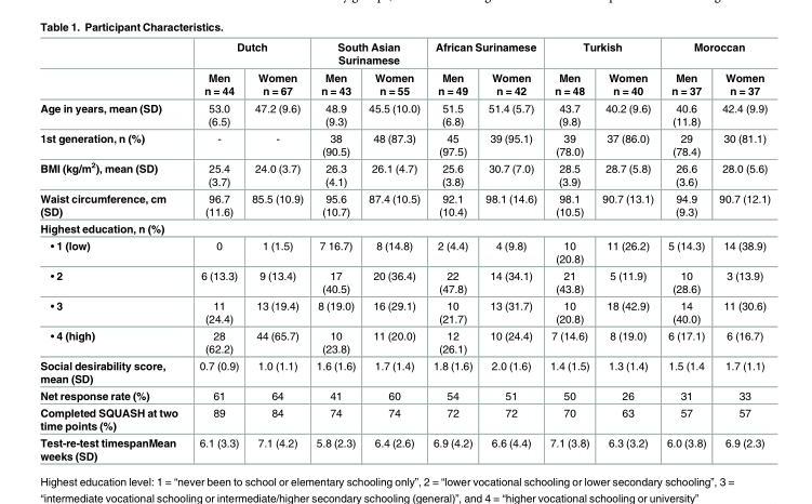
<table><thead><tr><td rowspan="2"></td><td colspan="2">Dutch</td><td colspan="2">South Asian Surinamese</td><td colspan="2">African Surinamese</td><td colspan="2">Turkish</td><td colspan="2">Moroccan</td></tr><tr><td>Men n = 44</td><td>Women n = 67</td><td>Men n = 43</td><td>Women n = 55</td><td>Men n = 49</td><td>Women n = 42</td><td>Men n = 48</td><td>Women n = 40</td><td>Men n = 37</td><td>Women n = 37</td></tr></thead><tbody><tr><td>Age in years, mean (SD)</td><td>53.0 (6.5)</td><td>47.2 (9.6)</td><td>48.9 (9.3)</td><td>45.5 (10.0)</td><td>51.5 (6.8)</td><td>51.4 (5.7)</td><td>43.7 (9.8)</td><td>40.2 (9.6)</td><td>40.6 (11.8)</td><td>42.4 (9.9)</td></tr><tr><td>1st generation, n (%)</td><td>-</td><td>-</td><td>38 (90.5)</td><td>48 (87.3)</td><td>45 (97.5)</td><td>39 (95.1)</td><td>39 (78.0)</td><td>37 (86.0)</td><td>29 (78.4)</td><td>30 (81.1)</td></tr><tr><td>BMI (kg/m<sup>2</sup>), mean (SD)</td><td>25.4 (3.7)</td><td>24.0 (3.7)</td><td>26.3 (4.1)</td><td>26.1 (4.7)</td><td>25.6 (3.8)</td><td>30.7 (7.0)</td><td>28.5 (3.9)</td><td>28.7 (5.8)</td><td>26.6 (3.6)</td><td>28.0 (5.6)</td></tr><tr><td>Waist circumference, cm (SD)</td><td>96.7 (11.6)</td><td>85.5 (10.9)</td><td>95.6 (10.7)</td><td>87.4 (10.5)</td><td>92.1 (10.4)</td><td>98.1 (14.6)</td><td>98.1 (10.5)</td><td>90.7 (13.1)</td><td>94.9 (9.3)</td><td>90.7 (12.1)</td></tr><tr><td colspan="11">Highest education, n (%)</td></tr><tr><td>• 1 (low)</td><td>0</td><td>1 (1.5)</td><td>7 16.7)</td><td>8 (14.8)</td><td>2 (4.4)</td><td>4 (9.8)</td><td>10 (20.8)</td><td>11 (26.2)</td><td>5 (14.3)</td><td>14 (38.9)</td></tr><tr><td>• 2</td><td>6 (13.3)</td><td>9 (13.4)</td><td>17 (40.5)</td><td>20 (36.4)</td><td>22 (47.8)</td><td>14 (34.1)</td><td>21 (43.8)</td><td>5 (11.9)</td><td>10 (28.6)</td><td>3 (13.9)</td></tr><tr><td>• 3</td><td>11 (24.4)</td><td>13 (19.4)</td><td>8 (19.0)</td><td>16 (29.1)</td><td>10 (21.7)</td><td>13 (31.7)</td><td>10 (20.8)</td><td>18 (42.9)</td><td>14 (40.0)</td><td>11 (30.6)</td></tr><tr><td>• 4 (high)</td><td>28 (62.2)</td><td>44 (65.7)</td><td>10 (23.8)</td><td>11 (20.0)</td><td>12 (26.1)</td><td>10 (24.4)</td><td>7 (14.6)</td><td>8 (19.0)</td><td>6 (17.1)</td><td>6 (16.7)</td></tr><tr><td>Social desirability score, mean (SD)</td><td>0.7 (0.9)</td><td>1.0 (1.1)</td><td>1.6 (1.6)</td><td>1.7 (1.4)</td><td>1.8 (1.6)</td><td>2.0 (1.6)</td><td>1.4 (1.5)</td><td>1.3 (1.4)</td><td>1.5 (1.4</td><td>1.7 (1.1)</td></tr><tr><td>Net response rate (%)</td><td>61</td><td>64</td><td>41</td><td>60</td><td>54</td><td>51</td><td>50</td><td>26</td><td>31</td><td>33</td></tr><tr><td>Completed SQUASH at two time points (%)</td><td>89</td><td>84</td><td>74</td><td>74</td><td>72</td><td>72</td><td>70</td><td>63</td><td>57</td><td>57</td></tr><tr><td>Test-re-test timespanMean weeks (SD)</td><td>6.1 (3.3)</td><td>7.1 (4.2)</td><td>5.8 (2.3)</td><td>6.4 (2.6)</td><td>6.9 (4.2)</td><td>6.6 (4.4)</td><td>7.1 (3.8)</td><td>6.3 (3.2)</td><td>6.0 (3.8)</td><td>6.9 (2.3)</td></tr></tbody></table>